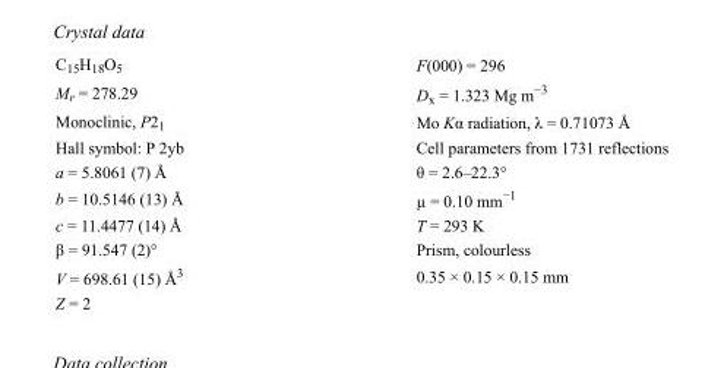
<table><tbody><tr><td>C<sub>15</sub>H<sub>18</sub>O<sub>5</sub></td><td>F(000) = 296</td></tr><tr><td>M<sub>r</sub> = 278.29</td><td>D<sub>x</sub> = 1.323 Mg m<sup>−3</sup></td></tr><tr><td>Monoclinic, P2<sub>1</sub></td><td>Mo Kα radiation, λ = 0.71073 Å</td></tr><tr><td>Hall symbol: P 2yb</td><td>Cell parameters from 1731 reflections</td></tr><tr><td>a = 5.8061 (7) Å</td><td>θ = 2.6–22.3°</td></tr><tr><td>b = 10.5146 (13) Å</td><td>µ = 0.10 mm<sup>−1</sup></td></tr><tr><td>c = 11.4477 (14) Å</td><td>T = 293 K</td></tr><tr><td>β = 91.547 (2)°</td><td>Prism, colourless</td></tr><tr><td>V = 698.61 (15) Å<sup>3</sup></td><td>0.35 × 0.15 × 0.15 mm</td></tr><tr><td>Z = 2</td><td></td></tr></tbody></table>